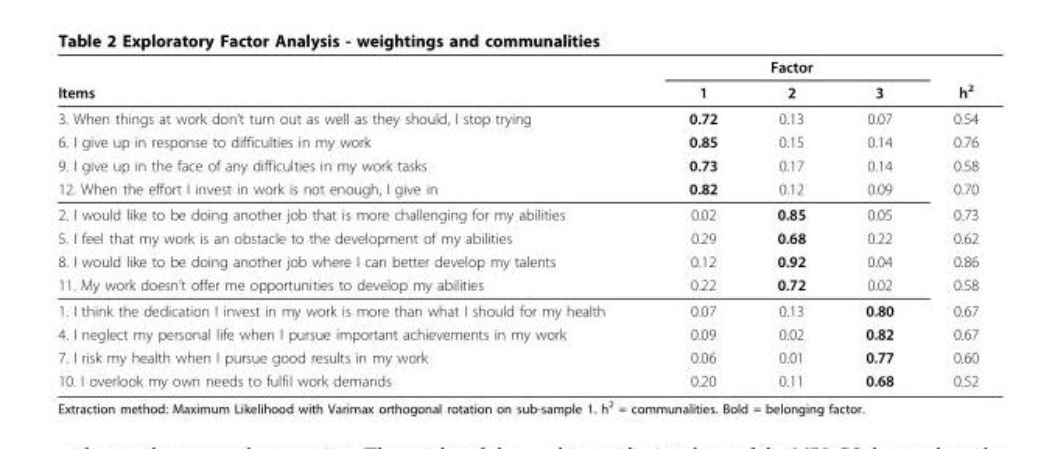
<table><thead><tr><td rowspan="2">Items</td><td colspan="3">Factor</td><td rowspan="2">h<sup>2</sup></td></tr><tr><td>1</td><td>2</td><td>3</td></tr></thead><tbody><tr><td>3. When things at work don’t turn out as well as they should, I stop trying</td><td>0.72</td><td>0.13</td><td>0.07</td><td>0.54</td></tr><tr><td>6. I give up in response to difficulties in my work</td><td>0.85</td><td>0.15</td><td>0.14</td><td>0.76</td></tr><tr><td>9. I give up in the face of any difficulties in my work tasks</td><td>0.73</td><td>0.17</td><td>0.14</td><td>0.58</td></tr><tr><td>12. When the effort I invest in work is not enough, I give in</td><td>0.82</td><td>0.12</td><td>0.09</td><td>0.70</td></tr><tr><td>2. I would like to be doing another job that is more challenging for my abilities</td><td>0.02</td><td>0.85</td><td>0.05</td><td>0.73</td></tr><tr><td>5. I feel that my work is an obstacle to the development of my abilities</td><td>0.29</td><td>0.68</td><td>0.22</td><td>0.62</td></tr><tr><td>8. I would like to be doing another job where I can better develop my talents</td><td>0.12</td><td>0.92</td><td>0.04</td><td>0.86</td></tr><tr><td>11. My work doesn’t offer me opportunities to develop my abilities</td><td>0.22</td><td>0.72</td><td>0.02</td><td>0.58</td></tr><tr><td>1. I think the dedication I invest in my work is more than what I should for my health</td><td>0.07</td><td>0.13</td><td>0.80</td><td>0.67</td></tr><tr><td>4. I neglect my personal life when I pursue important achievements in my work</td><td>0.09</td><td>0.02</td><td>0.82</td><td>0.67</td></tr><tr><td>7. I risk my health when I pursue good results in my work</td><td>0.06</td><td>0.01</td><td>0.77</td><td>0.60</td></tr><tr><td>10. I overlook my own needs to fulfil work demands</td><td>0.20</td><td>0.11</td><td>0.68</td><td>0.52</td></tr></tbody></table>